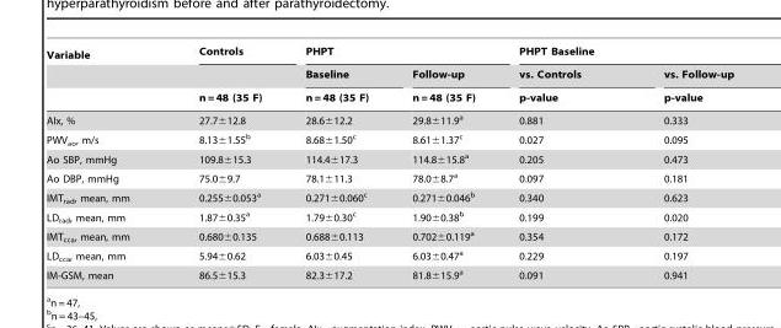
<table><thead><tr><td rowspan="3">Variable</td><td rowspan="3">Controls n = 48 (35 F)</td><td colspan="2">PHPT</td><td colspan="2">PHPT Baseline</td></tr><tr><td rowspan="2">Baseline n = 48 (35 F)</td><td rowspan="2">Follow-up n = 48 (35 F)</td><td rowspan="2">vs. Controls p-value</td><td rowspan="2">vs. Follow-up p-value</td></tr><tr></tr></thead><tbody><tr><td>AIx, %</td><td>27.7±12.8</td><td>28.6±12.2</td><td>29.8±11.9<sup>a</sup></td><td>0.881</td><td>0.333</td></tr><tr><td>PWV<sub>ao</sub>, m/s</td><td>8.13±1.55<sup>b</sup></td><td>8.68±1.50<sup>c</sup></td><td>8.61±1.37<sup>c</sup></td><td>0.027</td><td>0.095</td></tr><tr><td>Ao SBP, mmHg</td><td>109.8±15.3</td><td>114.4±17.3</td><td>114.8±15.8<sup>a</sup></td><td>0.205</td><td>0.473</td></tr><tr><td>Ao DBP, mmHg</td><td>75.0±9.7</td><td>78.1±11.3</td><td>78.0±8.7<sup>a</sup></td><td>0.097</td><td>0.181</td></tr><tr><td>IMT<sub>rad</sub>, mean, mm</td><td>0.255±0.053<sup>a</sup></td><td>0.271±0.060<sup>c</sup></td><td>0.271±0.046<sup>b</sup></td><td>0.340</td><td>0.623</td></tr><tr><td>LD<sub>rad</sub>, mean, mm</td><td>1.87±0.35<sup>a</sup></td><td>1.79±0.30<sup>c</sup></td><td>1.90±0.38<sup>b</sup></td><td>0.199</td><td>0.020</td></tr><tr><td>IMT<sub>cca</sub>, mean, mm</td><td>0.680±0.135</td><td>0.688±0.113</td><td>0.702±0.119<sup>a</sup></td><td>0.354</td><td>0.172</td></tr><tr><td>LD<sub>cca</sub>, mean, mm</td><td>5.94±0.62</td><td>6.03±0.45</td><td>6.03±0.47<sup>a</sup></td><td>0.229</td><td>0.197</td></tr><tr><td>IM-GSM, mean</td><td>86.5±15.3</td><td>82.3±17.2</td><td>81.8±15.9<sup>a</sup></td><td>0.091</td><td>0.941</td></tr></tbody></table>